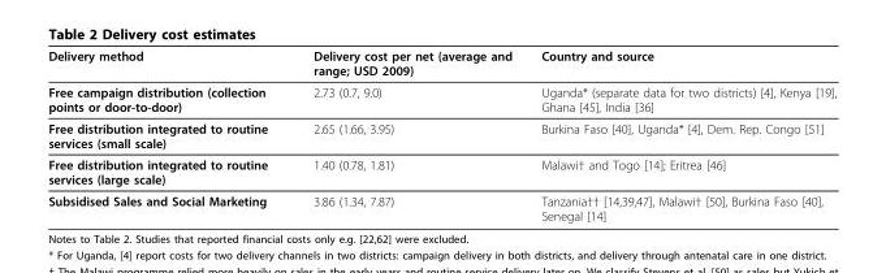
<table><thead><tr><td>Delivery method</td><td>Delivery cost per net (average and range; USD 2009)</td><td>Country and source</td></tr></thead><tbody><tr><td>Free campaign distribution (collection points or door-to-door)</td><td>2.73 (0.7, 9.0)</td><td>Uganda* (separate data for two districts) [4], Kenya [19], Ghana [45], India [36]</td></tr><tr><td>Free distribution integrated to routine services (small scale)</td><td>2.65 (1.66, 3.95)</td><td>Burkina Faso [40], Uganda* [4], Dem. Rep. Congo [51]</td></tr><tr><td>Free distribution integrated to routine services (large scale)</td><td>1.40 (0.78, 1.81)</td><td>Malawi† and Togo [14]; Eritrea [46]</td></tr><tr><td>Subsidised Sales and Social Marketing</td><td>3.86 (1.34, 7.87)</td><td>Tanzania†† [14,39,47], Malawi† [50], Burkina Faso [40], Senegal [14]</td></tr></tbody></table>